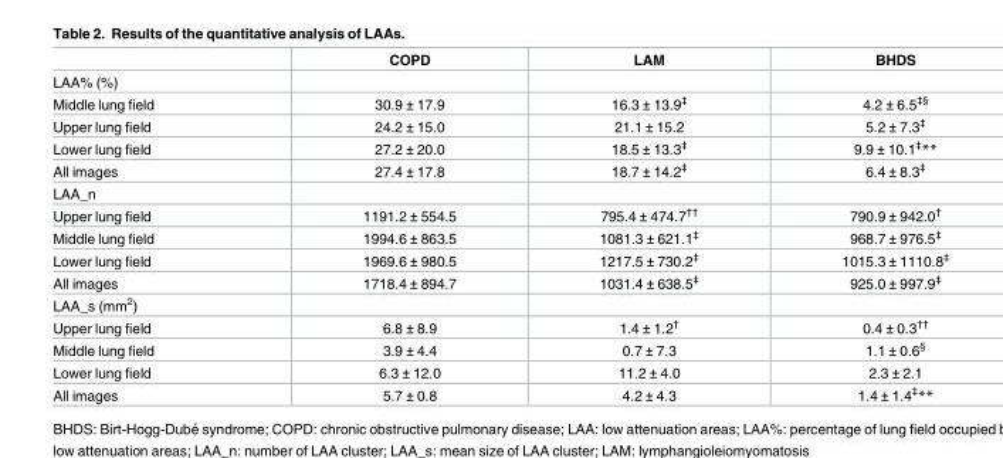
<table><thead><tr><td></td><td>COPD</td><td>LAM</td><td>BHDS</td></tr></thead><tbody><tr><td colspan="4">LAA% (%)</td></tr><tr><td>Middle lung field</td><td>30.9 ± 17.9</td><td>16.3 ± 13.9<sup>‡</sup></td><td>4.2 ± 6.5<sup>‡§</sup></td></tr><tr><td>Upper lung field</td><td>24.2 ± 15.0</td><td>21.1 ± 15.2</td><td>5.2 ± 7.3<sup>‡</sup></td></tr><tr><td>Lower lung field</td><td>27.2 ± 20.0</td><td>18.5 ± 13.3<sup>‡</sup></td><td>9.9 ± 10.1<sup>‡</sup>**</td></tr><tr><td>All images</td><td>27.4 ± 17.8</td><td>18.7 ± 14.2<sup>‡</sup></td><td>6.4 ± 8.3<sup>‡</sup></td></tr><tr><td colspan="4">LAA_n</td></tr><tr><td>Upper lung field</td><td>1191.2 ± 554.5</td><td>795.4 ± 474.7<sup>††</sup></td><td>790.9 ± 942.0<sup>†</sup></td></tr><tr><td>Middle lung field</td><td>1994.6 ± 863.5</td><td>1081.3 ± 621.1<sup>‡</sup></td><td>968.7 ± 976.5<sup>‡</sup></td></tr><tr><td>Lower lung field</td><td>1969.6 ± 980.5</td><td>1217.5 ± 730.2<sup>‡</sup></td><td>1015.3 ± 1110.8<sup>‡</sup></td></tr><tr><td>All images</td><td>1718.4 ± 894.7</td><td>1031.4 ± 638.5<sup>‡</sup></td><td>925.0 ± 997.9<sup>‡</sup></td></tr><tr><td colspan="4">LAA_s (mm<sup>2</sup>)</td></tr><tr><td>Upper lung field</td><td>6.8 ± 8.9</td><td>1.4 ± 1.2<sup>†</sup></td><td>0.4 ± 0.3<sup>††</sup></td></tr><tr><td>Middle lung field</td><td>3.9 ± 4.4</td><td>0.7 ± 7.3</td><td>1.1 ± 0.6<sup>§</sup></td></tr><tr><td>Lower lung field</td><td>6.3 ± 12.0</td><td>11.2 ± 4.0</td><td>2.3 ± 2.1</td></tr><tr><td>All images</td><td>5.7 ± 0.8</td><td>4.2 ± 4.3</td><td>1.4 ± 1.4<sup>‡</sup>**</td></tr></tbody></table>